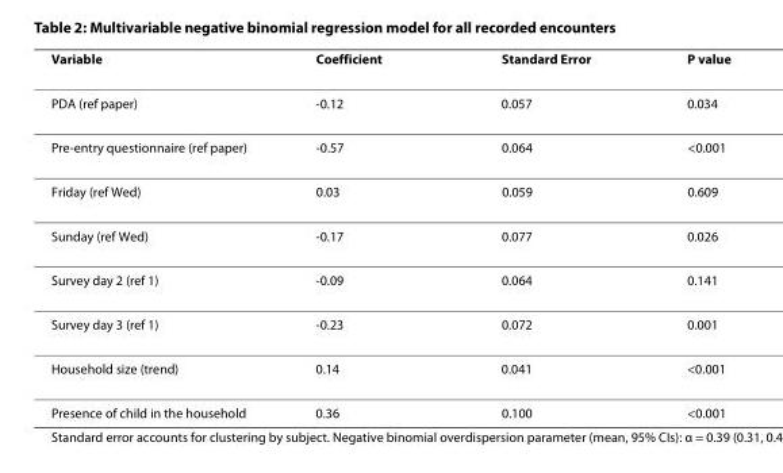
<table><thead><tr><td>Variable</td><td>Coefficient</td><td>Standard Error</td><td>P value</td></tr></thead><tbody><tr><td>PDA (ref paper)</td><td>-0.12</td><td>0.057</td><td>0.034</td></tr><tr><td>Pre-entry questionnaire (ref paper)</td><td>-0.57</td><td>0.064</td><td>&lt;0.001</td></tr><tr><td>Friday (ref Wed)</td><td>0.03</td><td>0.059</td><td>0.609</td></tr><tr><td>Sunday (ref Wed)</td><td>-0.17</td><td>0.077</td><td>0.026</td></tr><tr><td>Survey day 2 (ref 1)</td><td>-0.09</td><td>0.064</td><td>0.141</td></tr><tr><td>Survey day 3 (ref 1)</td><td>-0.23</td><td>0.072</td><td>0.001</td></tr><tr><td>Household size (trend)</td><td>0.14</td><td>0.041</td><td>&lt;0.001</td></tr><tr><td>Presence of child in the household</td><td>0.36</td><td>0.100</td><td>&lt;0.001</td></tr></tbody></table>